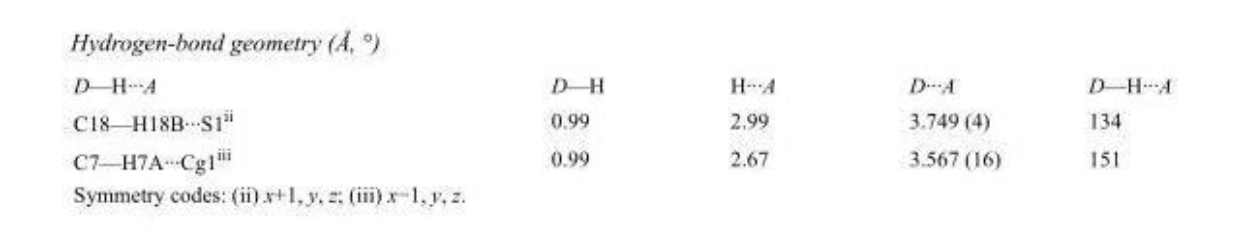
<table><tbody><tr><td>D—H···A</td><td>D—H</td><td>H···A</td><td>D···A</td><td>D—H···A</td></tr><tr><td>C18—H18B···S1<sup>ii</sup></td><td>0.99</td><td>2.99</td><td>3.749 (4)</td><td>134</td></tr><tr><td>C7—H7A···Cg1<sup>iii</sup></td><td>0.99</td><td>2.67</td><td>3.567 (16)</td><td>151</td></tr></tbody></table>